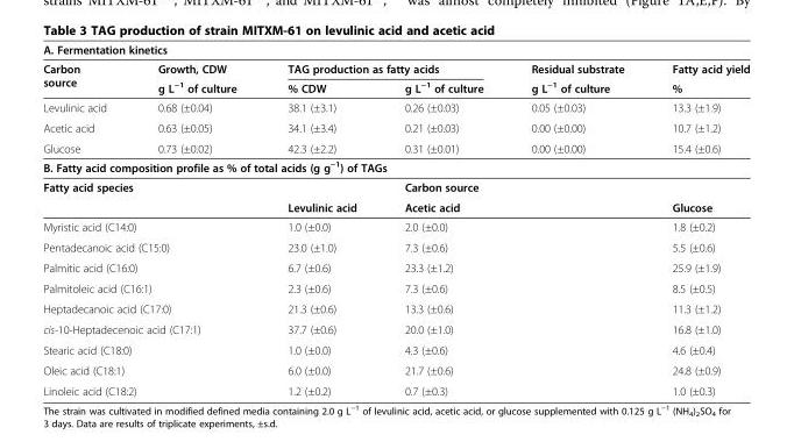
<table><thead><tr><td colspan="6">A. Fermentation kinetics</td></tr><tr><td rowspan="2">Carbon source</td><td rowspan="2">Growth, CDW g L<sup>−1</sup> of culture</td><td colspan="2">TAG production as fatty acids</td><td rowspan="2">Residual substrate g L<sup>−1</sup> of culture</td><td rowspan="2">Fatty acid yield %</td></tr><tr><td>% CDW</td><td>g L<sup>−1</sup> of culture</td></tr></thead><tbody><tr><td>Levulinic acid</td><td>0.68 (±0.04)</td><td>38.1 (±3.1)</td><td>0.26 (±0.03)</td><td>0.05 (±0.03)</td><td>13.3 (±1.9)</td></tr><tr><td>Acetic acid</td><td>0.63 (±0.05)</td><td>34.1 (±3.4)</td><td>0.21 (±0.03)</td><td>0.00 (±0.00)</td><td>10.7 (±1.2)</td></tr><tr><td>Glucose</td><td>0.73 (±0.02)</td><td>42.3 (±2.2)</td><td>0.31 (±0.01)</td><td>0.00 (±0.00)</td><td>15.4 (±0.6)</td></tr><tr><td colspan="6">B. Fatty acid composition profile as % of total acids (g g<sup>−1</sup>) of TAGs</td></tr><tr><td rowspan="2" colspan="2">Fatty acid species</td><td></td><td colspan="2">Carbon source</td><td></td></tr><tr><td>Levulinic acid</td><td colspan="2">Acetic acid</td><td>Glucose</td></tr><tr><td colspan="2">Myristic acid (C14:0)</td><td>1.0 (±0.0)</td><td colspan="2">2.0 (±0.0)</td><td>1.8 (±0.2)</td></tr><tr><td colspan="2">Pentadecanoic acid (C15:0)</td><td>23.0 (±1.0)</td><td colspan="2">7.3 (±0.6)</td><td>5.5 (±0.6)</td></tr><tr><td colspan="2">Palmitic acid (C16:0)</td><td>6.7 (±0.6)</td><td colspan="2">23.3 (±1.2)</td><td>25.9 (±1.9)</td></tr><tr><td colspan="2">Palmitoleic acid (C16:1)</td><td>2.3 (±0.6)</td><td colspan="2">7.3 (±0.6)</td><td>8.5 (±0.5)</td></tr><tr><td colspan="2">Heptadecanoic acid (C17:0)</td><td>21.3 (±0.6)</td><td colspan="2">13.3 (±0.6)</td><td>11.3 (±1.2)</td></tr><tr><td colspan="2">cis-10-Heptadecenoic acid (C17:1)</td><td>37.7 (±0.6)</td><td colspan="2">20.0 (±1.0)</td><td>16.8 (±1.0)</td></tr><tr><td colspan="2">Stearic acid (C18:0)</td><td>1.0 (±0.0)</td><td colspan="2">4.3 (±0.6)</td><td>4.6 (±0.4)</td></tr><tr><td colspan="2">Oleic acid (C18:1)</td><td>6.0 (±0.0)</td><td colspan="2">21.7 (±0.6)</td><td>24.8 (±0.9)</td></tr><tr><td colspan="2">Linoleic acid (C18:2)</td><td>1.2 (±0.2)</td><td colspan="2">0.7 (±0.3)</td><td>1.0 (±0.3)</td></tr></tbody></table>